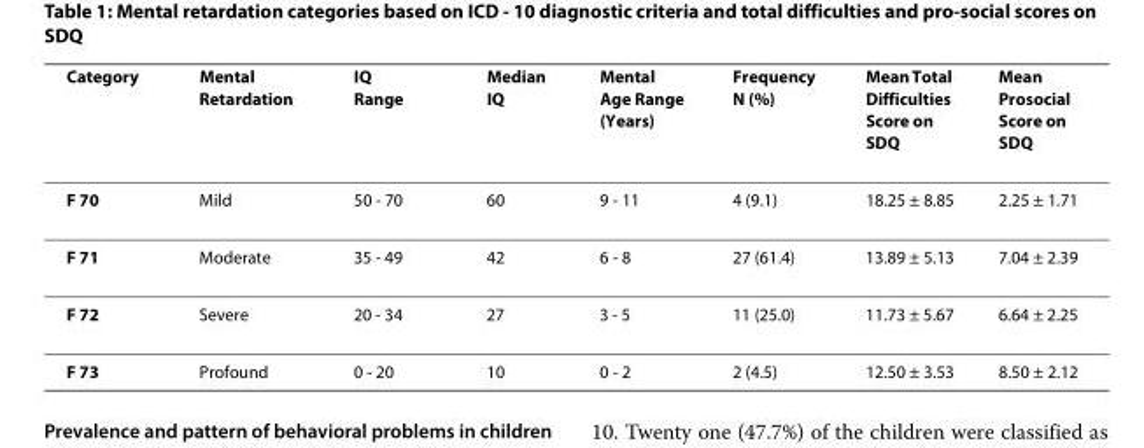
<table><thead><tr><td>Category</td><td>Mental Retardation</td><td>IQ Range</td><td>Median IQ</td><td>Mental Age Range (Years)</td><td>Frequency N (%)</td><td>Mean Total Difficulties Score on SDQ</td><td>Mean Prosocial Score on SDQ</td></tr></thead><tbody><tr><td>F 70</td><td>Mild</td><td>50 - 70</td><td>60</td><td>9 - 11</td><td>4 (9.1)</td><td>18.25 ± 8.85</td><td>2.25 ± 1.71</td></tr><tr><td>F 71</td><td>Moderate</td><td>35 - 49</td><td>42</td><td>6 - 8</td><td>27 (61.4)</td><td>13.89 ± 5.13</td><td>7.04 ± 2.39</td></tr><tr><td>F 72</td><td>Severe</td><td>20 - 34</td><td>27</td><td>3 - 5</td><td>11 (25.0)</td><td>11.73 ± 5.67</td><td>6.64 ± 2.25</td></tr><tr><td>F 73</td><td>Profound</td><td>0 - 20</td><td>10</td><td>0 - 2</td><td>2 (4.5)</td><td>12.50 ± 3.53</td><td>8.50 ± 2.12</td></tr></tbody></table>